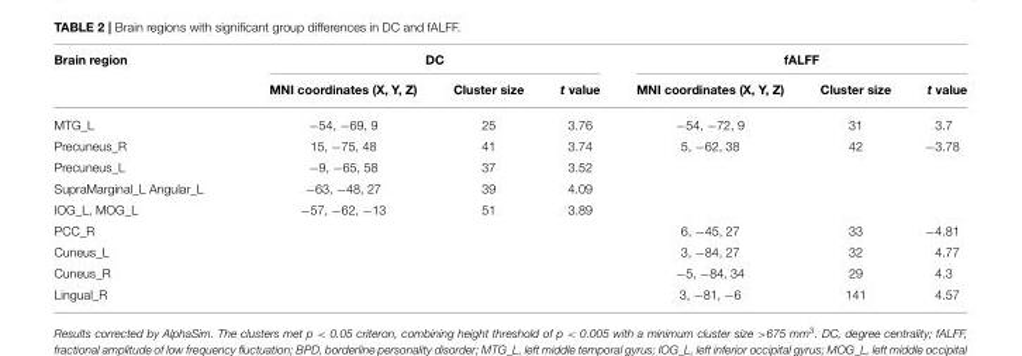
<table><thead><tr><td rowspan="2">Brain region</td><td colspan="3">DC</td><td colspan="3">fALFF</td></tr><tr><td>MNI coordinates (X, Y, Z)</td><td>Cluster size</td><td>t value</td><td>MNI coordinates (X, Y, Z)</td><td>Cluster size</td><td>t value</td></tr></thead><tbody><tr><td>MTG_L</td><td>−54, −69, 9</td><td>25</td><td>3.76</td><td>−54, −72, 9</td><td>31</td><td>3.7</td></tr><tr><td>Precuneus_R</td><td>15, −75, 48</td><td>41</td><td>3.74</td><td>5, −62, 38</td><td>42</td><td>−3.78</td></tr><tr><td>Precuneus_L</td><td>−9, −65, 58</td><td>37</td><td>3.52</td><td></td><td></td><td></td></tr><tr><td>SupraMarginal_L Angular_L</td><td>−63, −48, 27</td><td>39</td><td>4.09</td><td></td><td></td><td></td></tr><tr><td>IOG_L, MOG_L</td><td>−57, −62, −13</td><td>51</td><td>3.89</td><td></td><td></td><td></td></tr><tr><td>PCC_R</td><td></td><td></td><td></td><td>6, −45, 27</td><td>33</td><td>−4.81</td></tr><tr><td>Cuneus_L</td><td></td><td></td><td></td><td>3, −84, 27</td><td>32</td><td>4.77</td></tr><tr><td>Cuneus_R</td><td></td><td></td><td></td><td>−5, −84, 34</td><td>29</td><td>4.3</td></tr><tr><td>Lingual_R</td><td></td><td></td><td></td><td>3, −81, −6</td><td>141</td><td>4.57</td></tr></tbody></table>